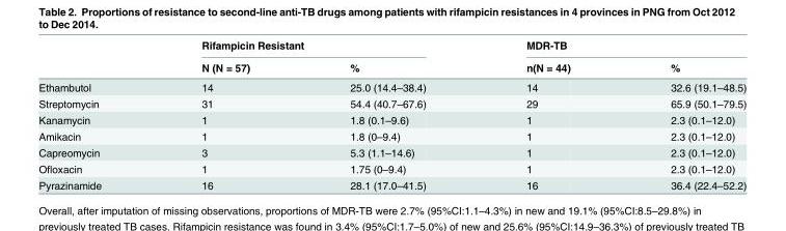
<table><thead><tr><td rowspan="2"></td><td colspan="2">Rifampicin Resistant</td><td colspan="2">MDR-TB</td></tr><tr><td>N (N = 57)</td><td>%</td><td>n(N = 44)</td><td>%</td></tr></thead><tbody><tr><td>Ethambutol</td><td>14</td><td>25.0 (14.4–38.4)</td><td>14</td><td>32.6 (19.1–48.5)</td></tr><tr><td>Streptomycin</td><td>31</td><td>54.4 (40.7–67.6)</td><td>29</td><td>65.9 (50.1–79.5)</td></tr><tr><td>Kanamycin</td><td>1</td><td>1.8 (0.1–9.6)</td><td>1</td><td>2.3 (0.1–12.0)</td></tr><tr><td>Amikacin</td><td>1</td><td>1.8 (0–9.4)</td><td>1</td><td>2.3 (0.1–12.0)</td></tr><tr><td>Capreomycin</td><td>3</td><td>5.3 (1.1–14.6)</td><td>1</td><td>2.3 (0.1–12.0)</td></tr><tr><td>Ofloxacin</td><td>1</td><td>1.75 (0–9.4)</td><td>1</td><td>2.3 (0.1–12.0)</td></tr><tr><td>Pyrazinamide</td><td>16</td><td>28.1 (17.0–41.5)</td><td>16</td><td>36.4 (22.4–52.2)</td></tr></tbody></table>